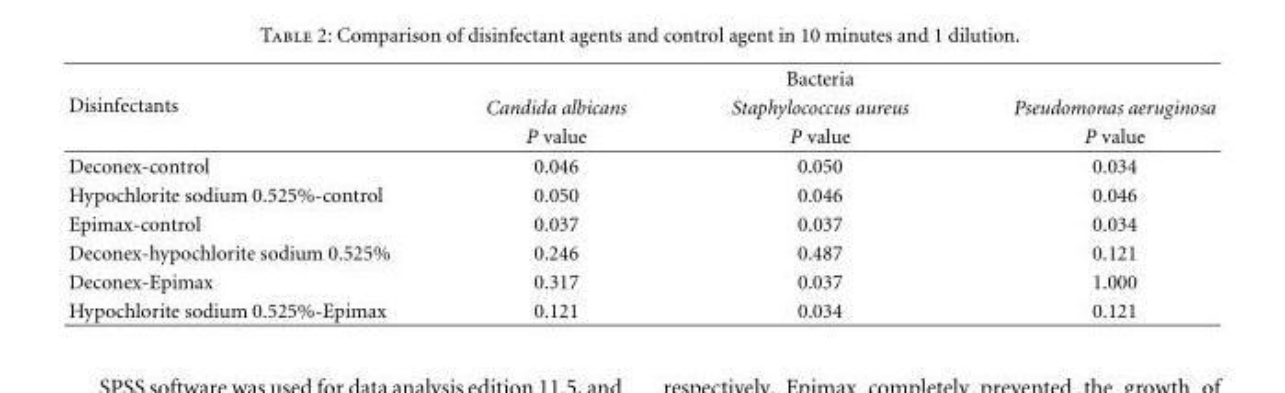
<table><thead><tr><td rowspan="3">Disinfectants</td><td colspan="3">Bacteria</td></tr><tr><td rowspan="2">Candida albicans P value</td><td rowspan="2">Staphylococcus aureus P value</td><td rowspan="2">Pseudomonas aeruginosa P value</td></tr><tr></tr></thead><tbody><tr><td>Deconex-control</td><td>0.046</td><td>0.050</td><td>0.034</td></tr><tr><td>Hypochlorite sodium 0.525%-control</td><td>0.050</td><td>0.046</td><td>0.046</td></tr><tr><td>Epimax-control</td><td>0.037</td><td>0.037</td><td>0.034</td></tr><tr><td>Deconex-hypochlorite sodium 0.525%</td><td>0.246</td><td>0.487</td><td>0.121</td></tr><tr><td>Deconex-Epimax</td><td>0.317</td><td>0.037</td><td>1.000</td></tr><tr><td>Hypochlorite sodium 0.525%-Epimax</td><td>0.121</td><td>0.034</td><td>0.121</td></tr></tbody></table>